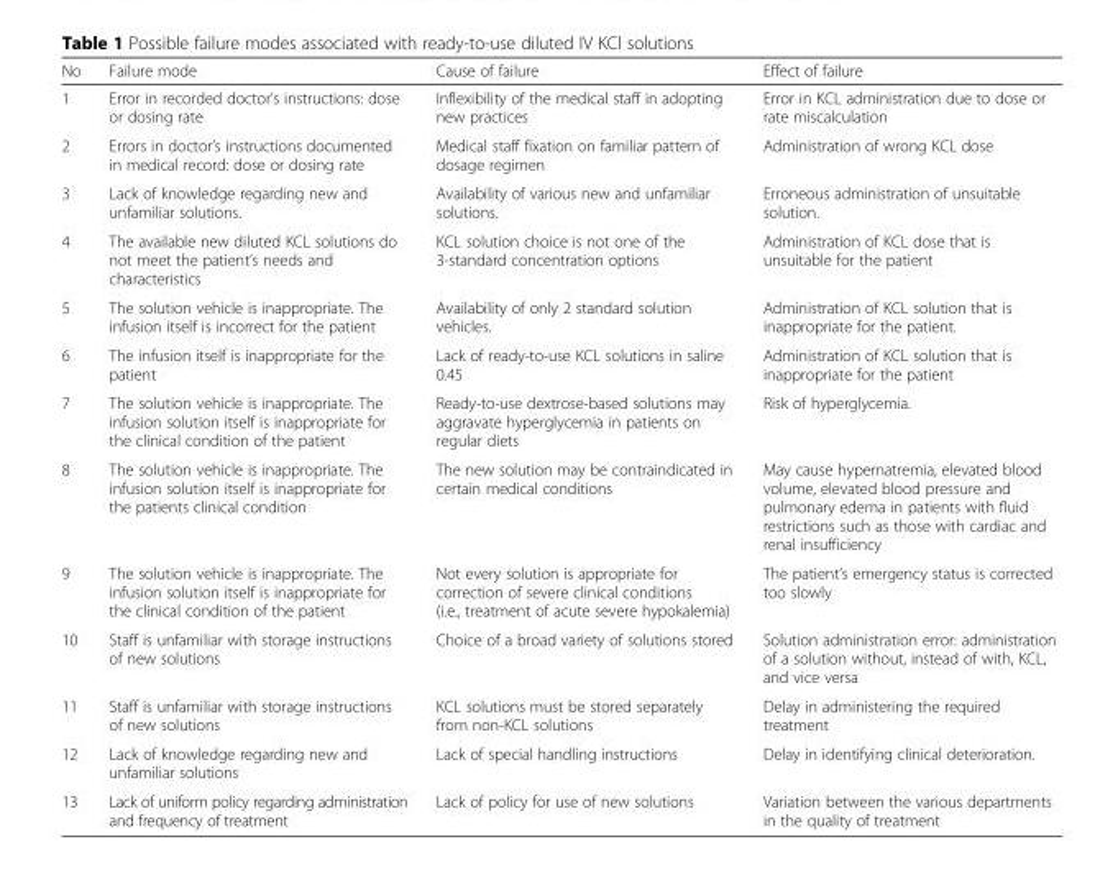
<table><thead><tr><td>No</td><td>Failure mode</td><td>Cause of failure</td><td>Effect of failure</td></tr></thead><tbody><tr><td>1</td><td>Error in recorded doctor’s instructions: dose or dosing rate</td><td>Inflexibility of the medical staff in adopting new practices</td><td>Error in KCL administration due to dose or rate miscalculation</td></tr><tr><td>2</td><td>Errors in doctor’s instructions documented in medical record: dose or dosing rate</td><td>Medical staff fixation on familiar pattern of dosage regimen</td><td>Administration of wrong KCL dose</td></tr><tr><td>3</td><td>Lack of knowledge regarding new and unfamiliar solutions.</td><td>Availability of various new and unfamiliar solutions.</td><td>Erroneous administration of unsuitable solution.</td></tr><tr><td>4</td><td>The available new diluted KCL solutions do not meet the patient’s needs and characteristics</td><td>KCL solution choice is not one of the 3-standard concentration options</td><td>Administration of KCL dose that is unsuitable for the patient</td></tr><tr><td>5</td><td>The solution vehicle is inappropriate. The infusion itself is incorrect for the patient</td><td>Availability of only 2 standard solution vehicles.</td><td>Administration of KCL solution that is inappropriate for the patient.</td></tr><tr><td>6</td><td>The infusion itself is inappropriate for the patient</td><td>Lack of ready-to-use KCL solutions in saline 0.45</td><td>Administration of KCL solution that is inappropriate for the patient</td></tr><tr><td>7</td><td>The solution vehicle is inappropriate. The infusion solution itself is inappropriate for the clinical condition of the patient</td><td>Ready-to-use dextrose-based solutions may aggravate hyperglycemia in patients on regular diets</td><td>Risk of hyperglycemia.</td></tr><tr><td>8</td><td>The solution vehicle is inappropriate. The infusion solution itself is inappropriate for the patients clinical condition</td><td>The new solution may be contraindicated in certain medical conditions</td><td>May cause hypernatremia, elevated blood volume, elevated blood pressure and pulmonary edema in patients with fluid restrictions such as those with cardiac and renal insufficiency</td></tr><tr><td>9</td><td>The solution vehicle is inappropriate. The infusion solution itself is inappropriate for the clinical condition of the patient</td><td>Not every solution is appropriate for correction of severe clinical conditions (i.e., treatment of acute severe hypokalemia)</td><td>The patient’s emergency status is corrected too slowly</td></tr><tr><td>10</td><td>Staff is unfamiliar with storage instructions of new solutions</td><td>Choice of a broad variety of solutions stored</td><td>Solution administration error: administration of a solution without, instead of with, KCL, and vice versa</td></tr><tr><td>11</td><td>Staff is unfamiliar with storage instructions of new solutions</td><td>KCL solutions must be stored separately from non-KCL solutions</td><td>Delay in administering the required treatment</td></tr><tr><td>12</td><td>Lack of knowledge regarding new and unfamiliar solutions</td><td>Lack of special handling instructions</td><td>Delay in identifying clinical deterioration.</td></tr><tr><td>13</td><td>Lack of uniform policy regarding administration and frequency of treatment</td><td>Lack of policy for use of new solutions</td><td>Variation between the various departments in the quality of treatment</td></tr></tbody></table>